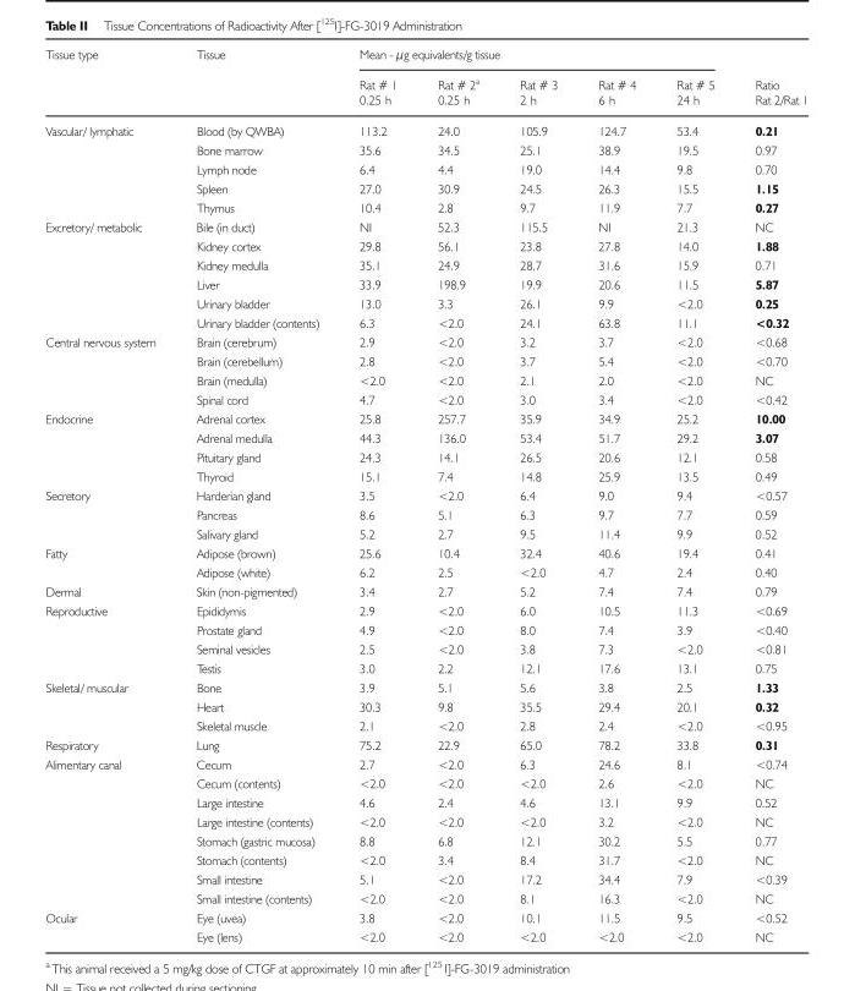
<table><thead><tr><td rowspan="3">Tissue type</td><td rowspan="3">Tissue</td><td colspan="5">Mean - μg equivalents/g tissue</td><td rowspan="3">Ratio Rat 2/Rat 1</td></tr><tr><td rowspan="2">Rat # 1 0.25 h</td><td rowspan="2">Rat # 2<sup>a</sup> 0.25 h</td><td rowspan="2">Rat # 3 2 h</td><td rowspan="2">Rat # 4 6 h</td><td rowspan="2">Rat # 5 24 h</td></tr><tr></tr></thead><tbody><tr><td rowspan="5">Vascular/ lymphatic</td><td>Blood (by QWBA)</td><td>113.2</td><td>24.0</td><td>105.9</td><td>124.7</td><td>53.4</td><td>0.21</td></tr><tr><td>Bone marrow</td><td>35.6</td><td>34.5</td><td>25.1</td><td>38.9</td><td>19.5</td><td>0.97</td></tr><tr><td>Lymph node</td><td>6.4</td><td>4.4</td><td>19.0</td><td>14.4</td><td>9.8</td><td>0.70</td></tr><tr><td>Spleen</td><td>27.0</td><td>30.9</td><td>24.5</td><td>26.3</td><td>15.5</td><td>1.15</td></tr><tr><td>Thymus</td><td>10.4</td><td>2.8</td><td>9.7</td><td>11.9</td><td>7.7</td><td>0.27</td></tr><tr><td rowspan="6">Excretory/ metabolic</td><td>Bile (in duct)</td><td>NI</td><td>52.3</td><td>115.5</td><td>NI</td><td>21.3</td><td>NC</td></tr><tr><td>Kidney cortex</td><td>29.8</td><td>56.1</td><td>23.8</td><td>27.8</td><td>14.0</td><td>1.88</td></tr><tr><td>Kidney medulla</td><td>35.1</td><td>24.9</td><td>28.7</td><td>31.6</td><td>15.9</td><td>0.71</td></tr><tr><td>Liver</td><td>33.9</td><td>198.9</td><td>19.9</td><td>20.6</td><td>11.5</td><td>5.87</td></tr><tr><td>Urinary bladder</td><td>13.0</td><td>3.3</td><td>26.1</td><td>9.9</td><td>&lt;2.0</td><td>0.25</td></tr><tr><td>Urinary bladder (contents)</td><td>6.3</td><td>&lt;2.0</td><td>24.1</td><td>63.8</td><td>11.1</td><td>&lt;0.32</td></tr><tr><td rowspan="4">Central nervous system</td><td>Brain (cerebrum)</td><td>2.9</td><td>&lt;2.0</td><td>3.2</td><td>3.7</td><td>&lt;2.0</td><td>&lt;0.68</td></tr><tr><td>Brain (cerebellum)</td><td>2.8</td><td>&lt;2.0</td><td>3.7</td><td>5.4</td><td>&lt;2.0</td><td>&lt;0.70</td></tr><tr><td>Brain (medulla)</td><td>&lt;2.0</td><td>&lt;2.0</td><td>2.1</td><td>2.0</td><td>&lt;2.0</td><td>NC</td></tr><tr><td>Spinal cord</td><td>4.7</td><td>&lt;2.0</td><td>3.0</td><td>3.4</td><td>&lt;2.0</td><td>&lt;0.42</td></tr><tr><td rowspan="4">Endocrine</td><td>Adrenal cortex</td><td>25.8</td><td>257.7</td><td>35.9</td><td>34.9</td><td>25.2</td><td>10.00</td></tr><tr><td>Adrenal medulla</td><td>44.3</td><td>136.0</td><td>53.4</td><td>51.7</td><td>29.2</td><td>3.07</td></tr><tr><td>Pituitary gland</td><td>24.3</td><td>14.1</td><td>26.5</td><td>20.6</td><td>12.1</td><td>0.58</td></tr><tr><td>Thyroid</td><td>15.1</td><td>7.4</td><td>14.8</td><td>25.9</td><td>13.5</td><td>0.49</td></tr><tr><td rowspan="3">Secretory</td><td>Harderian gland</td><td>3.5</td><td>&lt;2.0</td><td>6.4</td><td>9.0</td><td>9.4</td><td>&lt;0.57</td></tr><tr><td>Pancreas</td><td>8.6</td><td>5.1</td><td>6.3</td><td>9.7</td><td>7.7</td><td>0.59</td></tr><tr><td>Salivary gland</td><td>5.2</td><td>2.7</td><td>9.5</td><td>11.4</td><td>9.9</td><td>0.52</td></tr><tr><td rowspan="2">Fatty</td><td>Adipose (brown)</td><td>25.6</td><td>10.4</td><td>32.4</td><td>40.6</td><td>19.4</td><td>0.41</td></tr><tr><td>Adipose (white)</td><td>6.2</td><td>2.5</td><td>&lt;2.0</td><td>4.7</td><td>2.4</td><td>0.40</td></tr><tr><td>Dermal</td><td>Skin (non-pigmented)</td><td>3.4</td><td>2.7</td><td>5.2</td><td>7.4</td><td>7.4</td><td>0.79</td></tr><tr><td rowspan="4">Reproductive</td><td>Epididymis</td><td>2.9</td><td>&lt;2.0</td><td>6.0</td><td>10.5</td><td>11.3</td><td>&lt;0.69</td></tr><tr><td>Prostate gland</td><td>4.9</td><td>&lt;2.0</td><td>8.0</td><td>7.4</td><td>3.9</td><td>&lt;0.40</td></tr><tr><td>Seminal vesicles</td><td>2.5</td><td>&lt;2.0</td><td>3.8</td><td>7.3</td><td>&lt;2.0</td><td>&lt;0.81</td></tr><tr><td>Testis</td><td>3.0</td><td>2.2</td><td>12.1</td><td>17.6</td><td>13.1</td><td>0.75</td></tr><tr><td rowspan="3">Skeletal/ muscular</td><td>Bone</td><td>3.9</td><td>5.1</td><td>5.6</td><td>3.8</td><td>2.5</td><td>1.33</td></tr><tr><td>Heart</td><td>30.3</td><td>9.8</td><td>35.5</td><td>29.4</td><td>20.1</td><td>0.32</td></tr><tr><td>Skeletal muscle</td><td>2.1</td><td>&lt;2.0</td><td>2.8</td><td>2.4</td><td>&lt;2.0</td><td>&lt;0.95</td></tr><tr><td>Respiratory</td><td>Lung</td><td>75.2</td><td>22.9</td><td>65.0</td><td>78.2</td><td>33.8</td><td>0.31</td></tr><tr><td rowspan="8">Alimentary canal</td><td>Cecum</td><td>2.7</td><td>&lt;2.0</td><td>6.3</td><td>24.6</td><td>8.1</td><td>&lt;0.74</td></tr><tr><td>Cecum (contents)</td><td>&lt;2.0</td><td>&lt;2.0</td><td>&lt;2.0</td><td>2.6</td><td>&lt;2.0</td><td>NC</td></tr><tr><td>Large intestine</td><td>4.6</td><td>2.4</td><td>4.6</td><td>13.1</td><td>9.9</td><td>0.52</td></tr><tr><td>Large intestine (contents)</td><td>&lt;2.0</td><td>&lt;2.0</td><td>&lt;2.0</td><td>3.2</td><td>&lt;2.0</td><td>NC</td></tr><tr><td>Stomach (gastric mucosa)</td><td>8.8</td><td>6.8</td><td>12.1</td><td>30.2</td><td>5.5</td><td>0.77</td></tr><tr><td>Stomach (contents)</td><td>&lt;2.0</td><td>3.4</td><td>8.4</td><td>31.7</td><td>&lt;2.0</td><td>NC</td></tr><tr><td>Small intestine</td><td>5.1</td><td>&lt;2.0</td><td>17.2</td><td>34.4</td><td>7.9</td><td>&lt;0.39</td></tr><tr><td>Small intestine (contents)</td><td>&lt;2.0</td><td>&lt;2.0</td><td>8.1</td><td>16.3</td><td>&lt;2.0</td><td>NC</td></tr><tr><td rowspan="2">Ocular</td><td>Eye (uvea)</td><td>3.8</td><td>&lt;2.0</td><td>10.1</td><td>11.5</td><td>9.5</td><td>&lt;0.52</td></tr><tr><td>Eye (lens)</td><td>&lt;2.0</td><td>&lt;2.0</td><td>&lt;2.0</td><td>&lt;2.0</td><td>&lt;2.0</td><td>NC</td></tr></tbody></table>